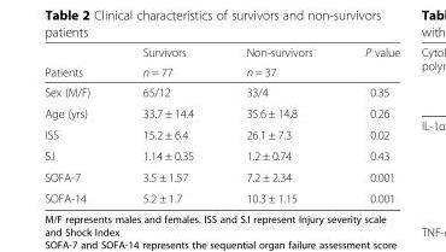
<table><thead><tr><td rowspan="2">Patients</td><td rowspan="2">Survivors n = 77</td><td rowspan="2">Non-survivors n = 37</td><td rowspan="2">P value</td></tr><tr></tr></thead><tbody><tr><td>Sex (M/F)</td><td>65/12</td><td>33/4</td><td>0.35</td></tr><tr><td>Age (yrs)</td><td>33.7 ± 14.4</td><td>35.6 ± 14.8</td><td>0.26</td></tr><tr><td>ISS</td><td>15.2 ± 6.4</td><td>26.1 ± 7.3</td><td>0.02</td></tr><tr><td>S.I</td><td>1.14 ± 0.35</td><td>1.2 ± 0.74</td><td>0.43</td></tr><tr><td>SOFA-7</td><td>3.5 ± 1.57</td><td>7.2 ± 2.34</td><td>0.001</td></tr><tr><td>SOFA-14</td><td>5.2 ± 1.7</td><td>10.3 ± 1.15</td><td>0.001</td></tr></tbody></table>